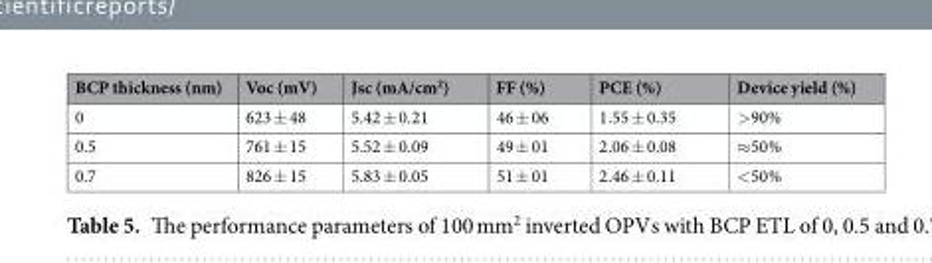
<table><thead><tr><td>BCP thickness (nm)</td><td>Voc (mV)</td><td>Jsc (mA/cm<sup>2</sup>)</td><td>FF (%)</td><td>PCE (%)</td><td>Device yield (%)</td></tr></thead><tbody><tr><td>0</td><td>623 ± 48</td><td>5.42 ± 0.21</td><td>46 ± 06</td><td>1.55 ± 0.35</td><td>&gt;90%</td></tr><tr><td>0.5</td><td>761 ± 15</td><td>5.52 ± 0.09</td><td>49 ± 01</td><td>2.06 ± 0.08</td><td>≈50%</td></tr><tr><td>0.7</td><td>826 ± 15</td><td>5.83 ± 0.05</td><td>51 ± 01</td><td>2.46 ± 0.11</td><td>&lt;50%</td></tr></tbody></table>